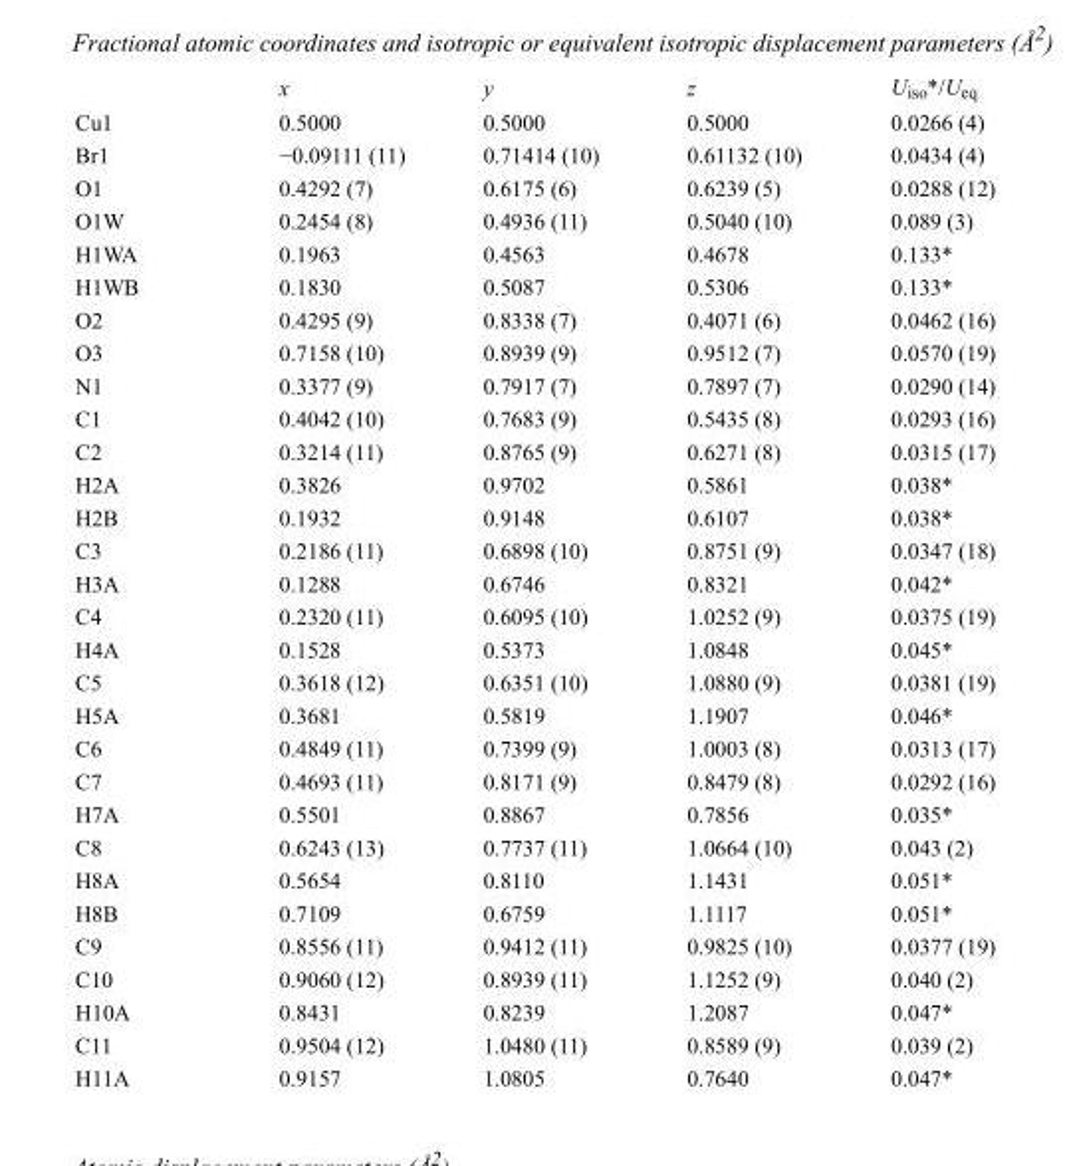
<table><thead><tr><td></td><td>x</td><td>y</td><td>z</td><td>U<sub>iso</sub>*/U<sub>eq</sub></td></tr></thead><tbody><tr><td>Cu1</td><td>0.5000</td><td>0.5000</td><td>0.5000</td><td>0.0266 (4)</td></tr><tr><td>Br1</td><td>−0.09111 (11)</td><td>0.71414 (10)</td><td>0.61132 (10)</td><td>0.0434 (4)</td></tr><tr><td>O1</td><td>0.4292 (7)</td><td>0.6175 (6)</td><td>0.6239 (5)</td><td>0.0288 (12)</td></tr><tr><td>O1W</td><td>0.2454 (8)</td><td>0.4936 (11)</td><td>0.5040 (10)</td><td>0.089 (3)</td></tr><tr><td>H1WA</td><td>0.1963</td><td>0.4563</td><td>0.4678</td><td>0.133*</td></tr><tr><td>H1WB</td><td>0.1830</td><td>0.5087</td><td>0.5306</td><td>0.133*</td></tr><tr><td>O2</td><td>0.4295 (9)</td><td>0.8338 (7)</td><td>0.4071 (6)</td><td>0.0462 (16)</td></tr><tr><td>O3</td><td>0.7158 (10)</td><td>0.8939 (9)</td><td>0.9512 (7)</td><td>0.0570 (19)</td></tr><tr><td>N1</td><td>0.3377 (9)</td><td>0.7917 (7)</td><td>0.7897 (7)</td><td>0.0290 (14)</td></tr><tr><td>C1</td><td>0.4042 (10)</td><td>0.7683 (9)</td><td>0.5435 (8)</td><td>0.0293 (16)</td></tr><tr><td>C2</td><td>0.3214 (11)</td><td>0.8765 (9)</td><td>0.6271 (8)</td><td>0.0315 (17)</td></tr><tr><td>H2A</td><td>0.3826</td><td>0.9702</td><td>0.5861</td><td>0.038*</td></tr><tr><td>H2B</td><td>0.1932</td><td>0.9148</td><td>0.6107</td><td>0.038*</td></tr><tr><td>C3</td><td>0.2186 (11)</td><td>0.6898 (10)</td><td>0.8751 (9)</td><td>0.0347 (18)</td></tr><tr><td>H3A</td><td>0.1288</td><td>0.6746</td><td>0.8321</td><td>0.042*</td></tr><tr><td>C4</td><td>0.2320 (11)</td><td>0.6095 (10)</td><td>1.0252 (9)</td><td>0.0375 (19)</td></tr><tr><td>H4A</td><td>0.1528</td><td>0.5373</td><td>1.0848</td><td>0.045*</td></tr><tr><td>C5</td><td>0.3618 (12)</td><td>0.6351 (10)</td><td>1.0880 (9)</td><td>0.0381 (19)</td></tr><tr><td>H5A</td><td>0.3681</td><td>0.5819</td><td>1.1907</td><td>0.046*</td></tr><tr><td>C6</td><td>0.4849 (11)</td><td>0.7399 (9)</td><td>1.0003 (8)</td><td>0.0313 (17)</td></tr><tr><td>C7</td><td>0.4693 (11)</td><td>0.8171 (9)</td><td>0.8479 (8)</td><td>0.0292 (16)</td></tr><tr><td>H7A</td><td>0.5501</td><td>0.8867</td><td>0.7856</td><td>0.035*</td></tr><tr><td>C8</td><td>0.6243 (13)</td><td>0.7737 (11)</td><td>1.0664 (10)</td><td>0.043 (2)</td></tr><tr><td>H8A</td><td>0.5654</td><td>0.8110</td><td>1.1431</td><td>0.051*</td></tr><tr><td>H8B</td><td>0.7109</td><td>0.6759</td><td>1.1117</td><td>0.051*</td></tr><tr><td>C9</td><td>0.8556 (11)</td><td>0.9412 (11)</td><td>0.9825 (10)</td><td>0.0377 (19)</td></tr><tr><td>C10</td><td>0.9060 (12)</td><td>0.8939 (11)</td><td>1.1252 (9)</td><td>0.040 (2)</td></tr><tr><td>H10A</td><td>0.8431</td><td>0.8239</td><td>1.2087</td><td>0.047*</td></tr><tr><td>C11</td><td>0.9504 (12)</td><td>1.0480 (11)</td><td>0.8589 (9)</td><td>0.039 (2)</td></tr><tr><td>H11A</td><td>0.9157</td><td>1.0805</td><td>0.7640</td><td>0.047*</td></tr></tbody></table>